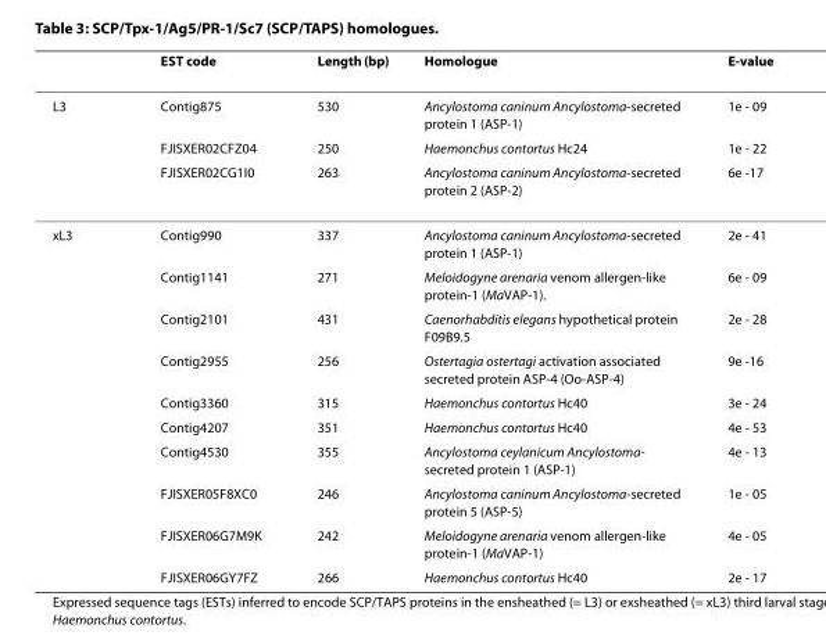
<table><thead><tr><td></td><td>EST code</td><td>Length (bp)</td><td>Homologue</td><td>E-value</td></tr></thead><tbody><tr><td rowspan="3">L3</td><td>Contig875</td><td>530</td><td>Ancylostoma caninum Ancylostoma-secreted protein 1 (ASP-1)</td><td>1e - 09</td></tr><tr><td>FJISXER02CFZ04</td><td>250</td><td>Haemonchus contortus Hc24</td><td>1e - 22</td></tr><tr><td>FJISXER02CG1I0</td><td>263</td><td>Ancylostoma caninum Ancylostoma-secreted protein 2 (ASP-2)</td><td>6e -17</td></tr><tr><td rowspan="10">xL3</td><td>Contig990</td><td>337</td><td>Ancylostoma caninum Ancylostoma-secreted protein 1 (ASP-1)</td><td>2e - 41</td></tr><tr><td>Contig1141</td><td>271</td><td>Meloidogyne arenaria venom allergen-like protein-1 (MaVAP-1).</td><td>6e - 09</td></tr><tr><td>Contig2101</td><td>431</td><td>Caenorhabditis elegans hypothetical protein F09B9.5</td><td>2e - 28</td></tr><tr><td>Contig2955</td><td>256</td><td>Ostertagia ostertagi activation associated secreted protein ASP-4 (Oo-ASP-4)</td><td>9e -16</td></tr><tr><td>Contig3360</td><td>315</td><td>Haemonchus contortus Hc40</td><td>3e - 24</td></tr><tr><td>Contig4207</td><td>351</td><td>Haemonchus contortus Hc40</td><td>4e - 53</td></tr><tr><td>Contig4530</td><td>355</td><td>Ancylostoma ceylanicum Ancylostoma- secreted protein 1 (ASP-1)</td><td>4e - 13</td></tr><tr><td>FJISXER05F8XC0</td><td>246</td><td>Ancylostoma caninum Ancylostoma-secreted protein 5 (ASP-5)</td><td>1e - 05</td></tr><tr><td>FJISXER06G7M9K</td><td>242</td><td>Meloidogyne arenaria venom allergen-like protein-1 (MaVAP-1)</td><td>4e - 05</td></tr><tr><td>FJISXER06GY7FZ</td><td>266</td><td>Haemonchus contortus Hc40</td><td>2e - 17</td></tr></tbody></table>